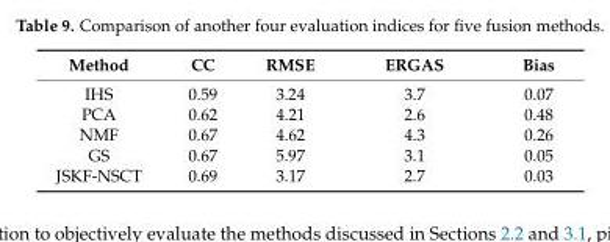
<table><thead><tr><td>Method</td><td>CC</td><td>RMSE</td><td>ERGAS</td><td>Bias</td></tr></thead><tbody><tr><td>IHS</td><td>0.59</td><td>3.24</td><td>3.7</td><td>0.07</td></tr><tr><td>PCA</td><td>0.62</td><td>4.21</td><td>2.6</td><td>0.48</td></tr><tr><td>NMF</td><td>0.67</td><td>4.62</td><td>4.3</td><td>0.26</td></tr><tr><td>GS</td><td>0.67</td><td>5.97</td><td>3.1</td><td>0.05</td></tr><tr><td>JSKF-NSCT</td><td>0.69</td><td>3.17</td><td>2.7</td><td>0.03</td></tr></tbody></table>